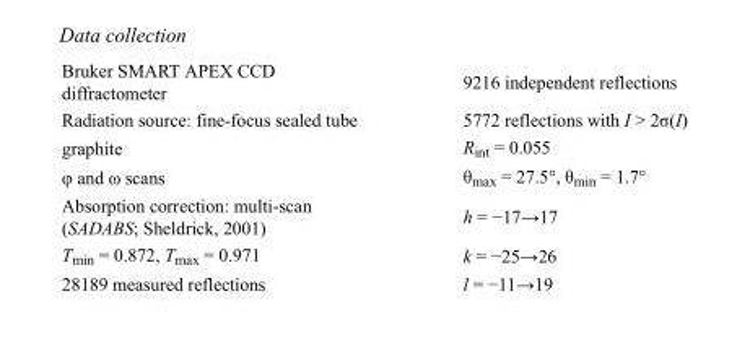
<table><tbody><tr><td>Bruker SMART APEX CCD diffractometer</td><td>9216 independent reflections</td></tr><tr><td>Radiation source: fine-focus sealed tube</td><td>5772 reflections with I &gt; 2σ(I)</td></tr><tr><td>graphite</td><td>R<sub>int</sub> = 0.055</td></tr><tr><td>φ and ω scans</td><td>θ<sub>max</sub> = 27.5°, θ<sub>min</sub> = 1.7°</td></tr><tr><td>Absorption correction: multi-scan (SADABS; Sheldrick, 2001)</td><td>h = −17→17</td></tr><tr><td>T<sub>min</sub> = 0.872, T<sub>max</sub> = 0.971</td><td>k = −25→26</td></tr><tr><td>28189 measured reflections</td><td>l = −11→19</td></tr></tbody></table>